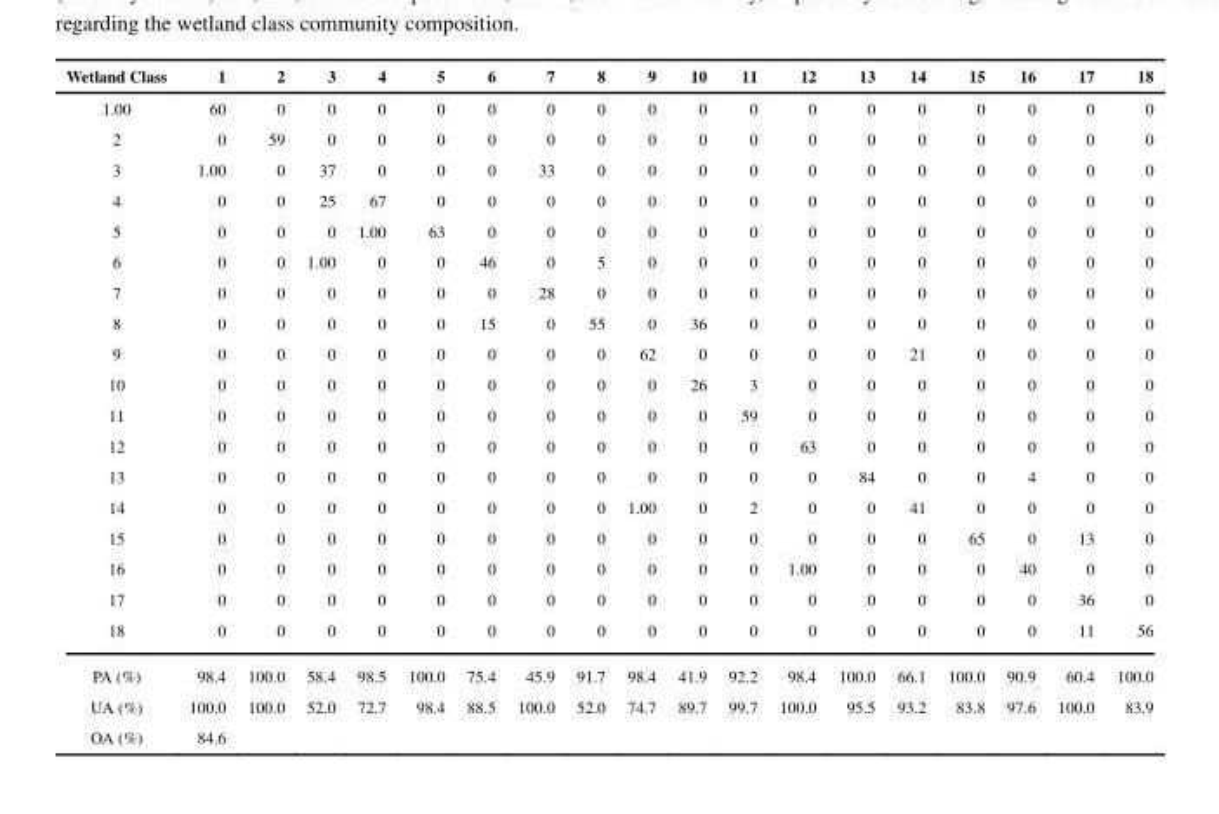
<table><thead><tr><td>Wetland Class</td><td>1</td><td>2</td><td>3</td><td>4</td><td>5</td><td>6</td><td>7</td><td>8</td><td>9</td><td>10</td><td>11</td><td>12</td><td>13</td><td>14</td><td>15</td><td>16</td><td>17</td><td>18</td></tr></thead><tbody><tr><td>1.00</td><td>60</td><td>0</td><td>0</td><td>0</td><td>0</td><td>0</td><td>0</td><td>0</td><td>0</td><td>0</td><td>0</td><td>0</td><td>0</td><td>0</td><td>0</td><td>0</td><td>0</td><td>0</td></tr><tr><td>2</td><td>0</td><td>59</td><td>0</td><td>0</td><td>0</td><td>0</td><td>0</td><td>0</td><td>0</td><td>0</td><td>0</td><td>0</td><td>0</td><td>0</td><td>0</td><td>0</td><td>0</td><td>0</td></tr><tr><td>3</td><td>1.00</td><td>0</td><td>37</td><td>0</td><td>0</td><td>0</td><td>33</td><td>0</td><td>0</td><td>0</td><td>0</td><td>0</td><td>0</td><td>0</td><td>0</td><td>0</td><td>0</td><td>0</td></tr><tr><td>4</td><td>0</td><td>0</td><td>25</td><td>67</td><td>0</td><td>0</td><td>0</td><td>0</td><td>0</td><td>0</td><td>0</td><td>0</td><td>0</td><td>0</td><td>0</td><td>0</td><td>0</td><td>0</td></tr><tr><td>5</td><td>0</td><td>0</td><td>0</td><td>1.00</td><td>63</td><td>0</td><td>0</td><td>0</td><td>0</td><td>0</td><td>0</td><td>0</td><td>0</td><td>0</td><td>0</td><td>0</td><td>0</td><td>0</td></tr><tr><td>6</td><td>0</td><td>0</td><td>1.00</td><td>0</td><td>0</td><td>46</td><td>0</td><td>5</td><td>0</td><td>0</td><td>0</td><td>0</td><td>0</td><td>0</td><td>0</td><td>0</td><td>0</td><td>0</td></tr><tr><td>7</td><td>0</td><td>0</td><td>0</td><td>0</td><td>0</td><td>0</td><td>28</td><td>0</td><td>0</td><td>0</td><td>0</td><td>0</td><td>0</td><td>0</td><td>0</td><td>0</td><td>0</td><td>0</td></tr><tr><td>8</td><td>0</td><td>0</td><td>0</td><td>0</td><td>0</td><td>15</td><td>0</td><td>55</td><td>0</td><td>36</td><td>0</td><td>0</td><td>0</td><td>0</td><td>0</td><td>0</td><td>0</td><td>0</td></tr><tr><td>9</td><td>0</td><td>0</td><td>0</td><td>0</td><td>0</td><td>0</td><td>0</td><td>0</td><td>62</td><td>0</td><td>0</td><td>0</td><td>0</td><td>21</td><td>0</td><td>0</td><td>0</td><td>0</td></tr><tr><td>10</td><td>0</td><td>0</td><td>0</td><td>0</td><td>0</td><td>0</td><td>0</td><td>0</td><td>0</td><td>26</td><td>3</td><td>0</td><td>0</td><td>0</td><td>0</td><td>0</td><td>0</td><td>0</td></tr><tr><td>11</td><td>0</td><td>0</td><td>0</td><td>0</td><td>0</td><td>0</td><td>0</td><td>0</td><td>0</td><td>0</td><td>59</td><td>0</td><td>0</td><td>0</td><td>0</td><td>0</td><td>0</td><td>0</td></tr><tr><td>12</td><td>0</td><td>0</td><td>0</td><td>0</td><td>0</td><td>0</td><td>0</td><td>0</td><td>0</td><td>0</td><td>0</td><td>63</td><td>0</td><td>0</td><td>0</td><td>0</td><td>0</td><td>0</td></tr><tr><td>13</td><td>0</td><td>0</td><td>0</td><td>0</td><td>0</td><td>0</td><td>0</td><td>0</td><td>0</td><td>0</td><td>0</td><td>0</td><td>84</td><td>0</td><td>0</td><td>4</td><td>0</td><td>0</td></tr><tr><td>14</td><td>0</td><td>0</td><td>0</td><td>0</td><td>0</td><td>0</td><td>0</td><td>0</td><td>1.00</td><td>0</td><td>2</td><td>0</td><td>0</td><td>41</td><td>0</td><td>0</td><td>0</td><td>0</td></tr><tr><td>15</td><td>0</td><td>0</td><td>0</td><td>0</td><td>0</td><td>0</td><td>0</td><td>0</td><td>0</td><td>0</td><td>0</td><td>0</td><td>0</td><td>0</td><td>65</td><td>0</td><td>13</td><td>0</td></tr><tr><td>16</td><td>0</td><td>0</td><td>0</td><td>0</td><td>0</td><td>0</td><td>0</td><td>0</td><td>0</td><td>0</td><td>0</td><td>1.00</td><td>0</td><td>0</td><td>0</td><td>40</td><td>0</td><td>0</td></tr><tr><td>17</td><td>0</td><td>0</td><td>0</td><td>0</td><td>0</td><td>0</td><td>0</td><td>0</td><td>0</td><td>0</td><td>0</td><td>0</td><td>0</td><td>0</td><td>0</td><td>0</td><td>36</td><td>0</td></tr><tr><td>18</td><td>0</td><td>0</td><td>0</td><td>0</td><td>0</td><td>0</td><td>0</td><td>0</td><td>0</td><td>0</td><td>0</td><td>0</td><td>0</td><td>0</td><td>0</td><td>0</td><td>11</td><td>56</td></tr><tr><td>PA (%)</td><td>98.4</td><td>100.0</td><td>58.4</td><td>98.5</td><td>100.0</td><td>75.4</td><td>45.9</td><td>91.7</td><td>98.4</td><td>41.9</td><td>92.2</td><td>98.4</td><td>100.0</td><td>66.1</td><td>100.0</td><td>90.9</td><td>60.4</td><td>100.0</td></tr><tr><td>UA (%)</td><td>100.0</td><td>100.0</td><td>52.0</td><td>72.7</td><td>98.4</td><td>88.5</td><td>100.0</td><td>52.0</td><td>74.7</td><td>89.7</td><td>99.7</td><td>100.0</td><td>95.5</td><td>93.2</td><td>83.8</td><td>97.6</td><td>100.0</td><td>83.9</td></tr><tr><td>OA (%)</td><td>84.6</td><td></td><td></td><td></td><td></td><td></td><td></td><td></td><td></td><td></td><td></td><td></td><td></td><td></td><td></td><td></td><td></td><td></td></tr></tbody></table>